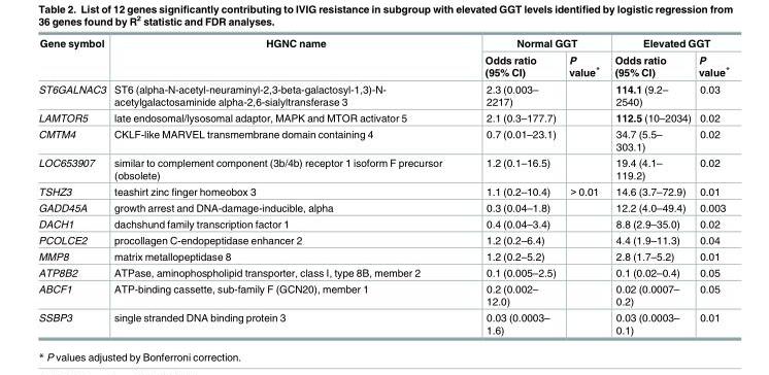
<table><thead><tr><td rowspan="2">Gene symbol</td><td rowspan="2">HGNC name</td><td colspan="2">Normal GGT</td><td colspan="2">Elevated GGT</td></tr><tr><td>Odds ratio (95% CI)</td><td>P value*</td><td>Odds ratio (95% CI)</td><td>P value*</td></tr></thead><tbody><tr><td>ST6GALNAC3</td><td>ST6 (alpha-N-acetyl-neuraminyl-2,3-beta-galactosyl-1,3)-N- acetylgalactosaminide alpha-2,6-sialyltransferase 3</td><td>2.3 (0.003– 2217)</td><td></td><td>114.1 (9.2– 2540)</td><td>0.03</td></tr><tr><td>LAMTOR5</td><td>late endosomal/lysosomal adaptor, MAPK and MTOR activator 5</td><td>2.1 (0.3–177.7)</td><td></td><td>112.5 (10–2034)</td><td>0.02</td></tr><tr><td>CMTM4</td><td>CKLF-like MARVEL transmembrane domain containing 4</td><td>0.7 (0.01–23.1)</td><td></td><td>34.7 (5.5– 303.1)</td><td>0.02</td></tr><tr><td>LOC653907</td><td>similar to complement component (3b/4b) receptor 1 isoform F precursor (obsolete)</td><td>1.2 (0.1–16.5)</td><td></td><td>19.4 (4.1– 119.2)</td><td>0.02</td></tr><tr><td>TSHZ3</td><td>teashirt zinc finger homeobox 3</td><td>1.1 (0.2–10.4)</td><td>&gt; 0.01</td><td>14.6 (3.7–72.9)</td><td>0.01</td></tr><tr><td>GADD45A</td><td>growth arrest and DNA-damage-inducible, alpha</td><td>0.3 (0.04–1.8)</td><td></td><td>12.2 (4.0–49.4)</td><td>0.003</td></tr><tr><td>DACH1</td><td>dachshund family transcription factor 1</td><td>0.4 (0.04–3.4)</td><td></td><td>8.8 (2.9–35.0)</td><td>0.02</td></tr><tr><td>PCOLCE2</td><td>procollagen C-endopeptidase enhancer 2</td><td>1.2 (0.2–6.4)</td><td></td><td>4.4 (1.9–11.3)</td><td>0.04</td></tr><tr><td>MMP8</td><td>matrix metallopeptidase 8</td><td>1.2 (0.2–5.2)</td><td></td><td>2.8 (1.7–5.2)</td><td>0.01</td></tr><tr><td>ATP8B2</td><td>ATPase, aminophospholipid transporter, class I, type 8B, member 2</td><td>0.1 (0.005–2.5)</td><td></td><td>0.1 (0.02–0.4)</td><td>0.05</td></tr><tr><td>ABCF1</td><td>ATP-binding cassette, sub-family F (GCN20), member 1</td><td>0.2 (0.002– 12.0)</td><td></td><td>0.02 (0.0007– 0.2)</td><td>0.05</td></tr><tr><td>SSBP3</td><td>single stranded DNA binding protein 3</td><td>0.03 (0.0003– 1.6)</td><td></td><td>0.03 (0.0003– 0.1)</td><td>0.01</td></tr></tbody></table>